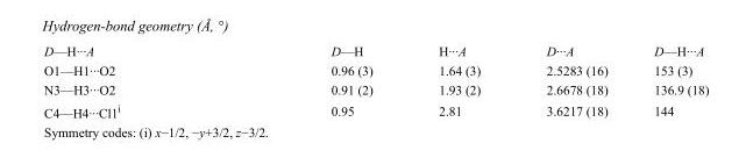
<table><tbody><tr><td>D—H···A</td><td>D—H</td><td>H···A</td><td>D···A</td><td>D—H···A</td></tr><tr><td>O1—H1···O2</td><td>0.96 (3)</td><td>1.64 (3)</td><td>2.5283 (16)</td><td>153 (3)</td></tr><tr><td>N3—H3···O2</td><td>0.91 (2)</td><td>1.93 (2)</td><td>2.6678 (18)</td><td>136.9 (18)</td></tr><tr><td>C4—H4···Cl1<sup>i</sup></td><td>0.95</td><td>2.81</td><td>3.6217 (18)</td><td>144</td></tr></tbody></table>